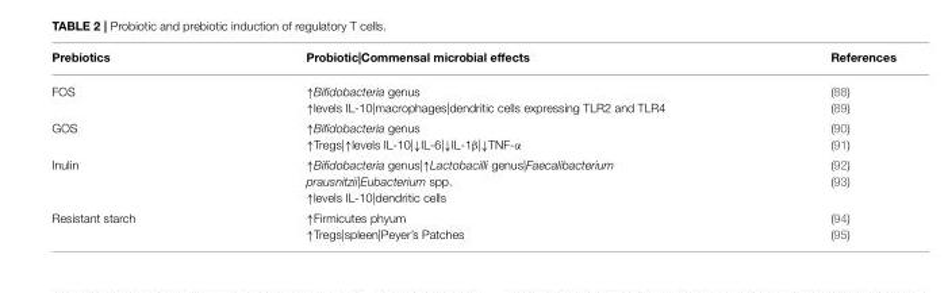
<table><thead><tr><td>Prebiotics</td><td>Probiotic|Commensal microbial effects</td><td>References</td></tr></thead><tbody><tr><td>FOS</td><td>↑Bifidobacteria genus ↑levels IL-10|macrophages|dendritic cells expressing TLR2 and TLR4</td><td>(88) (89)</td></tr><tr><td>GOS</td><td>↑Bifidobacteria genus ↑Tregs|↑levels IL-10|↓IL-6|↓IL-1β|↓TNF-α</td><td>(90) (91)</td></tr><tr><td>Inulin</td><td>↑Bifidobacteria genus|↑Lactobacilli genus|Faecalibacterium prausnitzii|Eubacterium spp. ↑levels IL-10|dendritic cells</td><td>(92) (93)</td></tr><tr><td>Resistant starch</td><td>↑Firmicutes phyum ↑Tregs|spleen|Peyer’s Patches</td><td>(94) (95)</td></tr></tbody></table>